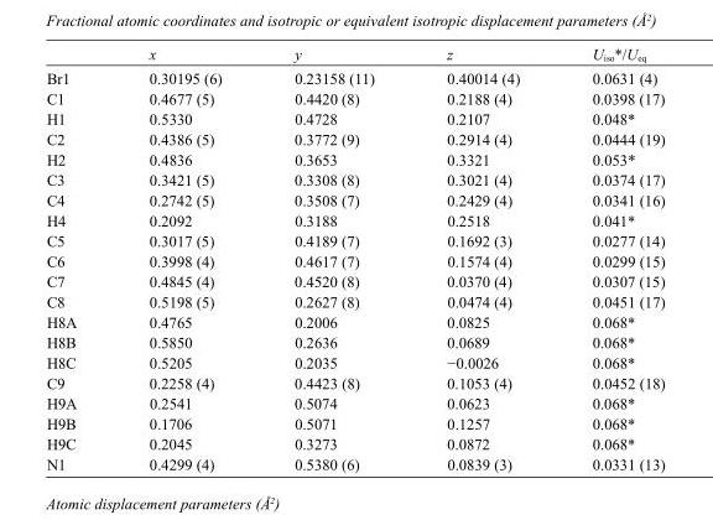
<table><thead><tr><td></td><td>x</td><td>y</td><td>z</td><td>U<sub>iso</sub>*/U<sub>eq</sub></td></tr></thead><tbody><tr><td>Br1</td><td>0.30195 (6)</td><td>0.23158 (11)</td><td>0.40014 (4)</td><td>0.0631 (4)</td></tr><tr><td>C1</td><td>0.4677 (5)</td><td>0.4420 (8)</td><td>0.2188 (4)</td><td>0.0398 (17)</td></tr><tr><td>H1</td><td>0.5330</td><td>0.4728</td><td>0.2107</td><td>0.048*</td></tr><tr><td>C2</td><td>0.4386 (5)</td><td>0.3772 (9)</td><td>0.2914 (4)</td><td>0.0444 (19)</td></tr><tr><td>H2</td><td>0.4836</td><td>0.3653</td><td>0.3321</td><td>0.053*</td></tr><tr><td>C3</td><td>0.3421 (5)</td><td>0.3308 (8)</td><td>0.3021 (4)</td><td>0.0374 (17)</td></tr><tr><td>C4</td><td>0.2742 (5)</td><td>0.3508 (7)</td><td>0.2429 (4)</td><td>0.0341 (16)</td></tr><tr><td>H4</td><td>0.2092</td><td>0.3188</td><td>0.2518</td><td>0.041*</td></tr><tr><td>C5</td><td>0.3017 (5)</td><td>0.4189 (7)</td><td>0.1692 (3)</td><td>0.0277 (14)</td></tr><tr><td>C6</td><td>0.3998 (4)</td><td>0.4617 (7)</td><td>0.1574 (4)</td><td>0.0299 (15)</td></tr><tr><td>C7</td><td>0.4845 (4)</td><td>0.4520 (8)</td><td>0.0370 (4)</td><td>0.0307 (15)</td></tr><tr><td>C8</td><td>0.5198 (5)</td><td>0.2627 (8)</td><td>0.0474 (4)</td><td>0.0451 (17)</td></tr><tr><td>H8A</td><td>0.4765</td><td>0.2006</td><td>0.0825</td><td>0.068*</td></tr><tr><td>H8B</td><td>0.5850</td><td>0.2636</td><td>0.0689</td><td>0.068*</td></tr><tr><td>H8C</td><td>0.5205</td><td>0.2035</td><td>−0.0026</td><td>0.068*</td></tr><tr><td>C9</td><td>0.2258 (4)</td><td>0.4423 (8)</td><td>0.1053 (4)</td><td>0.0452 (18)</td></tr><tr><td>H9A</td><td>0.2541</td><td>0.5074</td><td>0.0623</td><td>0.068*</td></tr><tr><td>H9B</td><td>0.1706</td><td>0.5071</td><td>0.1257</td><td>0.068*</td></tr><tr><td>H9C</td><td>0.2045</td><td>0.3273</td><td>0.0872</td><td>0.068*</td></tr><tr><td>N1</td><td>0.4299 (4)</td><td>0.5380 (6)</td><td>0.0839 (3)</td><td>0.0331 (13)</td></tr></tbody></table>